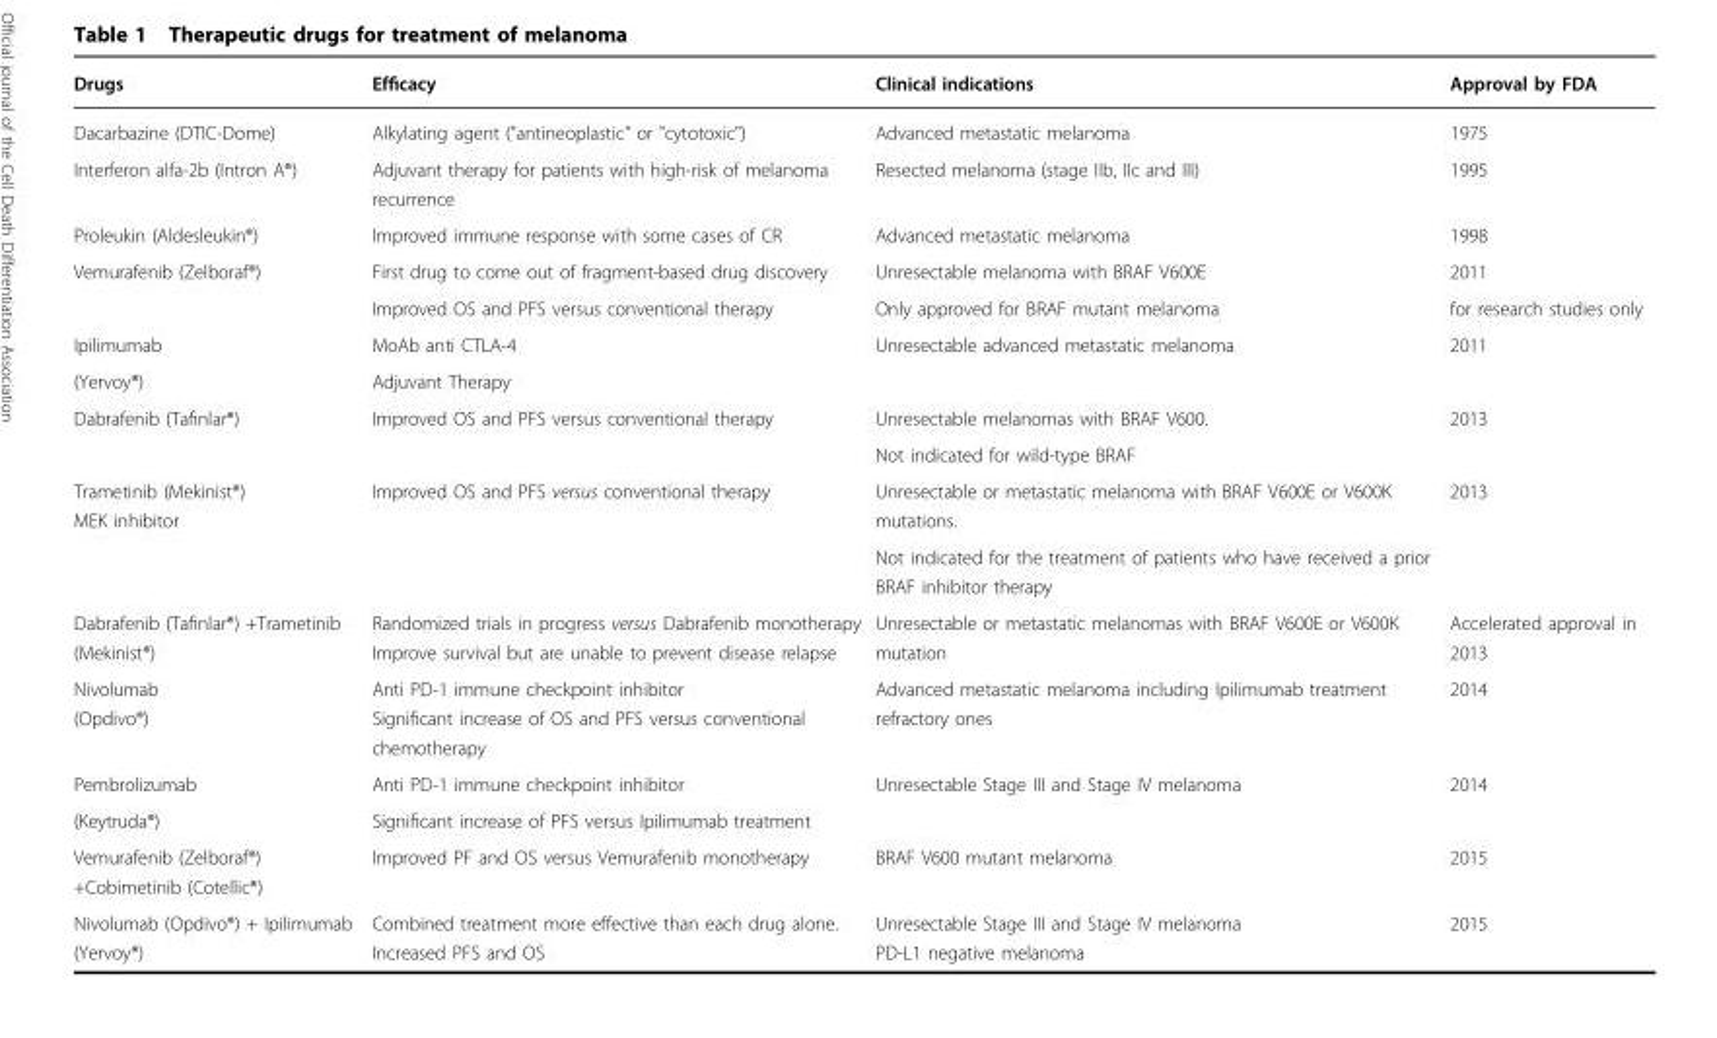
<table><thead><tr><td>Drugs</td><td>Efficacy</td><td>Clinical indications</td><td>Approval by FDA</td></tr></thead><tbody><tr><td>Dacarbazine (DTIC-Dome)</td><td>Alkylating agent (&quot;antineoplastic&quot; or &quot;cytotoxic&quot;)</td><td>Advanced metastatic melanoma</td><td>1975</td></tr><tr><td>Interferon alfa-2b (Intron A®)</td><td>Adjuvant therapy for patients with high-risk of melanoma recurrence</td><td>Resected melanoma (stage IIb, IIc and III)</td><td>1995</td></tr><tr><td>Proleukin (Aldesleukin®)</td><td>Improved immune response with some cases of CR</td><td>Advanced metastatic melanoma</td><td>1998</td></tr><tr><td rowspan="2">Vemurafenib (Zelboraf®)</td><td>First drug to come out of fragment-based drug discovery</td><td>Unresectable melanoma with BRAF V600E</td><td>2011</td></tr><tr><td>Improved OS and PFS versus conventional therapy</td><td>Only approved for BRAF mutant melanoma</td><td>for research studies only</td></tr><tr><td>Ipilimumab</td><td>MoAb anti CTLA-4</td><td>Unresectable advanced metastatic melanoma</td><td>2011</td></tr><tr><td>(Yervoy®)</td><td>Adjuvant Therapy</td><td></td><td></td></tr><tr><td rowspan="2">Dabrafenib (Tafinlar®)</td><td>Improved OS and PFS versus conventional therapy</td><td>Unresectable melanomas with BRAF V600.</td><td>2013</td></tr><tr><td></td><td>Not indicated for wild-type BRAF</td><td></td></tr><tr><td rowspan="2">Trametinib (Mekinist®) MEK inhibitor</td><td>Improved OS and PFS versus conventional therapy</td><td>Unresectable or metastatic melanoma with BRAF V600E or V600K mutations.</td><td>2013</td></tr><tr><td></td><td>Not indicated for the treatment of patients who have received a prior BRAF inhibitor therapy</td><td></td></tr><tr><td>Dabrafenib (Tafinlar®) +Trametinib (Mekinist®)</td><td>Randomized trials in progress versus Dabrafenib monotherapy Improve survival but are unable to prevent disease relapse</td><td>Unresectable or metastatic melanomas with BRAF V600E or V600K mutation</td><td>Accelerated approval in 2013</td></tr><tr><td>Nivolumab (Opdivo®)</td><td>Anti PD-1 immune checkpoint inhibitor Significant increase of OS and PFS versus conventional chemotherapy</td><td>Advanced metastatic melanoma including Ipilimumab treatment refractory ones</td><td>2014</td></tr><tr><td>Pembrolizumab</td><td>Anti PD-1 immune checkpoint inhibitor</td><td>Unresectable Stage III and Stage IV melanoma</td><td>2014</td></tr><tr><td>(Keytruda®)</td><td>Significant increase of PFS versus Ipilimumab treatment</td><td></td><td></td></tr><tr><td>Vemurafenib (Zelboraf®) +Cobimetinib (Cotellic®)</td><td>Improved PF and OS versus Vemurafenib monotherapy</td><td>BRAF V600 mutant melanoma</td><td>2015</td></tr><tr><td>Nivolumab (Opdivo®) + Ipilimumab (Yervoy®)</td><td>Combined treatment more effective than each drug alone. Increased PFS and OS</td><td>Unresectable Stage III and Stage IV melanoma PD-L1 negative melanoma</td><td>2015</td></tr></tbody></table>